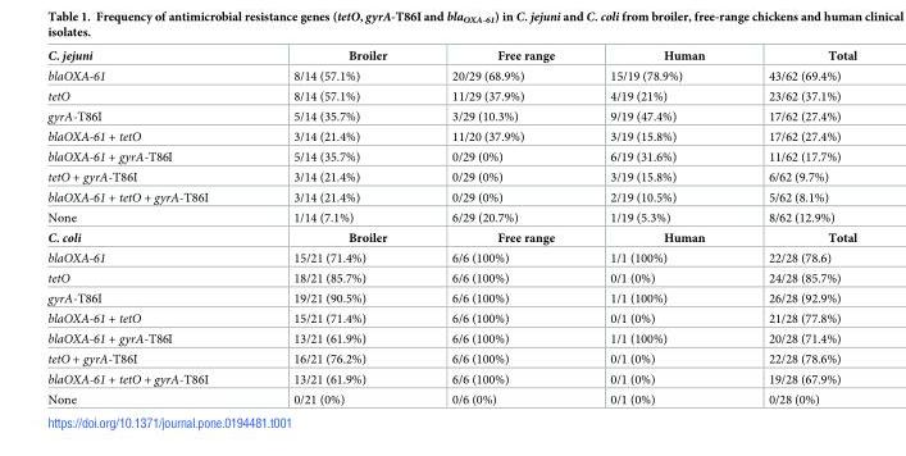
<table><tbody><tr><td>C. jejuni</td><td>Broiler</td><td>Free range</td><td>Human</td><td>Total</td></tr><tr><td>blaOXA-61</td><td>8/14 (57.1%)</td><td>20/29 (68.9%)</td><td>15/19 (78.9%)</td><td>43/62 (69.4%)</td></tr><tr><td>tetO</td><td>8/14 (57.1%)</td><td>11/29 (37.9%)</td><td>4/19 (21%)</td><td>23/62 (37.1%)</td></tr><tr><td>gyrA-T86I</td><td>5/14 (35.7%)</td><td>3/29 (10.3%)</td><td>9/19 (47.4%)</td><td>17/62 (27.4%)</td></tr><tr><td>blaOXA-61 + tetO</td><td>3/14 (21.4%)</td><td>11/20 (37.9%)</td><td>3/19 (15.8%)</td><td>17/62 (27.4%)</td></tr><tr><td>blaOXA-61 + gyrA-T86I</td><td>5/14 (35.7%)</td><td>0/29 (0%)</td><td>6/19 (31.6%)</td><td>11/62 (17.7%)</td></tr><tr><td>tetO + gyrA-T86I</td><td>3/14 (21.4%)</td><td>0/29 (0%)</td><td>3/19 (15.8%)</td><td>6/62 (9.7%)</td></tr><tr><td>blaOXA-61 + tetO + gyrA-T86I</td><td>3/14 (21.4%)</td><td>0/29 (0%)</td><td>2/19 (10.5%)</td><td>5/62 (8.1%)</td></tr><tr><td>None</td><td>1/14 (7.1%)</td><td>6/29 (20.7%)</td><td>1/19 (5.3%)</td><td>8/62 (12.9%)</td></tr><tr><td>C. coli</td><td>Broiler</td><td>Free range</td><td>Human</td><td>Total</td></tr><tr><td>blaOXA-61</td><td>15/21 (71.4%)</td><td>6/6 (100%)</td><td>1/1 (100%)</td><td>22/28 (78.6)</td></tr><tr><td>tetO</td><td>18/21 (85.7%)</td><td>6/6 (100%)</td><td>0/1 (0%)</td><td>24/28 (85.7%)</td></tr><tr><td>gyrA-T86I</td><td>19/21 (90.5%)</td><td>6/6 (100%)</td><td>1/1 (100%)</td><td>26/28 (92.9%)</td></tr><tr><td>blaOXA-61 + tetO</td><td>15/21 (71.4%)</td><td>6/6 (100%)</td><td>0/1 (0%)</td><td>21/28 (77.8%)</td></tr><tr><td>blaOXA-61 + gyrA-T86I</td><td>13/21 (61.9%)</td><td>6/6 (100%)</td><td>1/1 (100%)</td><td>20/28 (71.4%)</td></tr><tr><td>tetO + gyrA-T86I</td><td>16/21 (76.2%)</td><td>6/6 (100%)</td><td>0/1 (0%)</td><td>22/28 (78.6%)</td></tr><tr><td>blaOXA-61 + tetO + gyrA-T86I</td><td>13/21 (61.9%)</td><td>6/6 (100%)</td><td>0/1 (0%)</td><td>19/28 (67.9%)</td></tr><tr><td>None</td><td>0/21 (0%)</td><td>0/6 (0%)</td><td>0/1 (0%)</td><td>0/28 (0%)</td></tr></tbody></table>